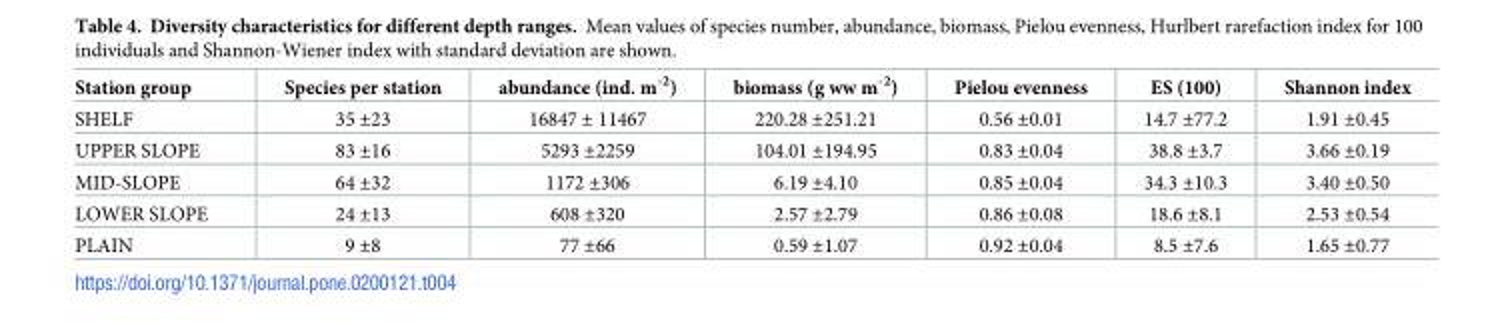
<table><thead><tr><td>Station group</td><td>Species per station</td><td>abundance (ind. m<sup>-2</sup>)</td><td>biomass (g ww m<sup>-2</sup>)</td><td>Pielou evenness</td><td>ES (100)</td><td>Shannon index</td></tr></thead><tbody><tr><td>SHELF</td><td>35 ±23</td><td>16847 ± 11467</td><td>220.28 ±251.21</td><td>0.56 ±0.01</td><td>14.7 ±77.2</td><td>1.91 ±0.45</td></tr><tr><td>UPPER SLOPE</td><td>83 ±16</td><td>5293 ±2259</td><td>104.01 ±194.95</td><td>0.83 ±0.04</td><td>38.8 ±3.7</td><td>3.66 ±0.19</td></tr><tr><td>MID-SLOPE</td><td>64 ±32</td><td>1172 ±306</td><td>6.19 ±4.10</td><td>0.85 ±0.04</td><td>34.3 ±10.3</td><td>3.40 ±0.50</td></tr><tr><td>LOWER SLOPE</td><td>24 ±13</td><td>608 ±320</td><td>2.57 ±2.79</td><td>0.86 ±0.08</td><td>18.6 ±8.1</td><td>2.53 ±0.54</td></tr><tr><td>PLAIN</td><td>9 ±8</td><td>77 ±66</td><td>0.59 ±1.07</td><td>0.92 ±0.04</td><td>8.5 ±7.6</td><td>1.65 ±0.77</td></tr></tbody></table>